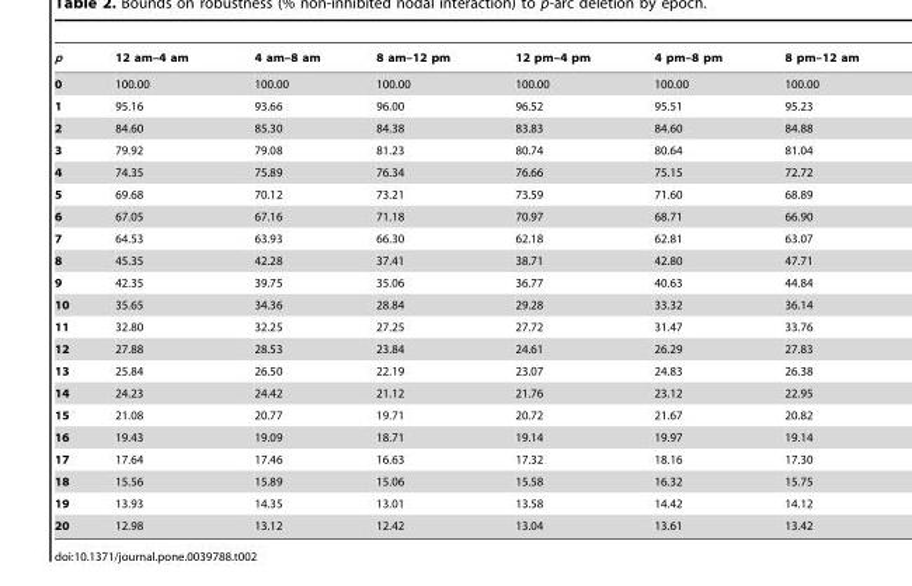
<table><thead><tr><td>p</td><td>12 am–4 am</td><td>4 am–8 am</td><td>8 am–12 pm</td><td>12 pm–4 pm</td><td>4 pm–8 pm</td><td>8 pm–12 am</td></tr></thead><tbody><tr><td>0</td><td>100.00</td><td>100.00</td><td>100.00</td><td>100.00</td><td>100.00</td><td>100.00</td></tr><tr><td>1</td><td>95.16</td><td>93.66</td><td>96.00</td><td>96.52</td><td>95.51</td><td>95.23</td></tr><tr><td>2</td><td>84.60</td><td>85.30</td><td>84.38</td><td>83.83</td><td>84.60</td><td>84.88</td></tr><tr><td>3</td><td>79.92</td><td>79.08</td><td>81.23</td><td>80.74</td><td>80.64</td><td>81.04</td></tr><tr><td>4</td><td>74.35</td><td>75.89</td><td>76.34</td><td>76.66</td><td>75.15</td><td>72.72</td></tr><tr><td>5</td><td>69.68</td><td>70.12</td><td>73.21</td><td>73.59</td><td>71.60</td><td>68.89</td></tr><tr><td>6</td><td>67.05</td><td>67.16</td><td>71.18</td><td>70.97</td><td>68.71</td><td>66.90</td></tr><tr><td>7</td><td>64.53</td><td>63.93</td><td>66.30</td><td>62.18</td><td>62.81</td><td>63.07</td></tr><tr><td>8</td><td>45.35</td><td>42.28</td><td>37.41</td><td>38.71</td><td>42.80</td><td>47.71</td></tr><tr><td>9</td><td>42.35</td><td>39.75</td><td>35.06</td><td>36.77</td><td>40.63</td><td>44.84</td></tr><tr><td>10</td><td>35.65</td><td>34.36</td><td>28.84</td><td>29.28</td><td>33.32</td><td>36.14</td></tr><tr><td>11</td><td>32.80</td><td>32.25</td><td>27.25</td><td>27.72</td><td>31.47</td><td>33.76</td></tr><tr><td>12</td><td>27.88</td><td>28.53</td><td>23.84</td><td>24.61</td><td>26.29</td><td>27.83</td></tr><tr><td>13</td><td>25.84</td><td>26.50</td><td>22.19</td><td>23.07</td><td>24.83</td><td>26.38</td></tr><tr><td>14</td><td>24.23</td><td>24.42</td><td>21.12</td><td>21.76</td><td>23.12</td><td>22.95</td></tr><tr><td>15</td><td>21.08</td><td>20.77</td><td>19.71</td><td>20.72</td><td>21.67</td><td>20.82</td></tr><tr><td>16</td><td>19.43</td><td>19.09</td><td>18.71</td><td>19.14</td><td>19.97</td><td>19.14</td></tr><tr><td>17</td><td>17.64</td><td>17.46</td><td>16.63</td><td>17.32</td><td>18.16</td><td>17.30</td></tr><tr><td>18</td><td>15.56</td><td>15.89</td><td>15.06</td><td>15.58</td><td>16.32</td><td>15.75</td></tr><tr><td>19</td><td>13.93</td><td>14.35</td><td>13.01</td><td>13.58</td><td>14.42</td><td>14.12</td></tr><tr><td>20</td><td>12.98</td><td>13.12</td><td>12.42</td><td>13.04</td><td>13.61</td><td>13.42</td></tr></tbody></table>